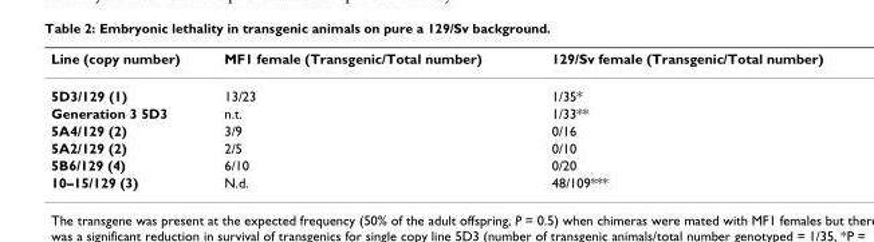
<table><thead><tr><td>Line (copy number)</td><td>MF1 female (Transgenic/Total number)</td><td>129/Sv female (Transgenic/Total number)</td></tr></thead><tbody><tr><td>5D3/129 (1)</td><td>13/23</td><td>1/35*</td></tr><tr><td>Generation 3 5D3</td><td>n.t.</td><td>1/33**</td></tr><tr><td>5A4/129 (2)</td><td>3/9</td><td>0/16</td></tr><tr><td>5A2/129 (2)</td><td>2/5</td><td>0/10</td></tr><tr><td>5B6/129 (4)</td><td>6/10</td><td>0/20</td></tr><tr><td>10–15/129 (3)</td><td>N.d.</td><td>48/109***</td></tr></tbody></table>